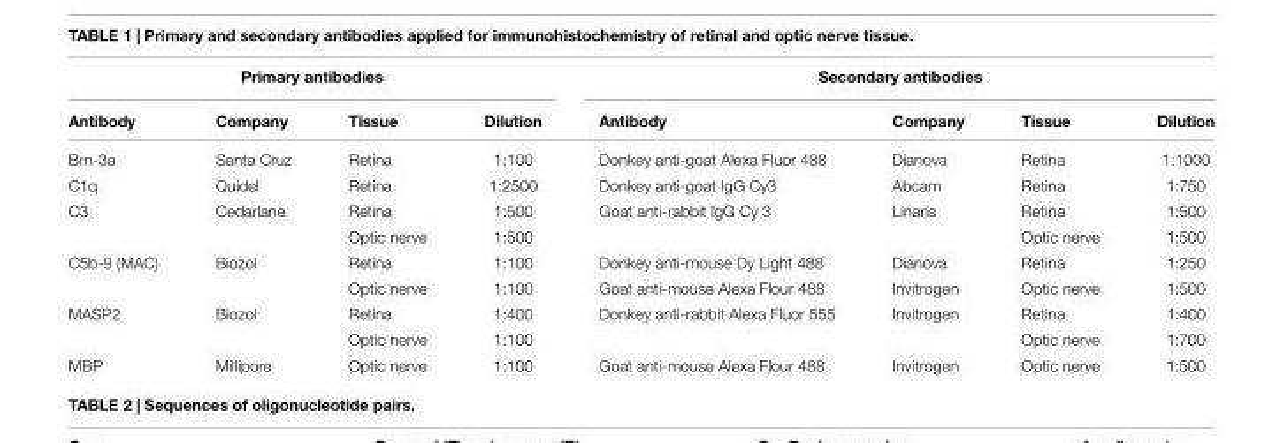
<table><thead><tr><td colspan="4">Primary antibodies</td><td colspan="4">Secondary antibodies</td></tr><tr><td>Antibody</td><td>Company</td><td>Tissue</td><td>Dilution</td><td>Antibody</td><td>Company</td><td>Tissue</td><td>Dilution</td></tr></thead><tbody><tr><td>Brn-3a</td><td>Santa Cruz</td><td>Retina</td><td>1:100</td><td>Donkey anti-goat Alexa Fluor 488</td><td>Dianova</td><td>Retina</td><td>1:1000</td></tr><tr><td>C1q</td><td>Quidel</td><td>Retina</td><td>1:2500</td><td>Donkey anti-goat IgG Cy3</td><td>Abcam</td><td>Retina</td><td>1:750</td></tr><tr><td rowspan="2">C3</td><td>Cedarlane</td><td>Retina</td><td>1:500</td><td>Goat anti-rabbit IgG Cy 3</td><td>Linaris</td><td>Retina</td><td>1:500</td></tr><tr><td></td><td>Optic nerve</td><td>1:500</td><td></td><td></td><td>Optic nerve</td><td>1:500</td></tr><tr><td rowspan="2">C5b-9 (MAC)</td><td>Biozol</td><td>Retina</td><td>1:100</td><td>Donkey anti-mouse Dy Light 488</td><td>Dianova</td><td>Retina</td><td>1:250</td></tr><tr><td></td><td>Optic nerve</td><td>1:100</td><td>Goat anti-mouse Alexa Flour 488</td><td>Invitrogen</td><td>Optic nerve</td><td>1:500</td></tr><tr><td rowspan="2">MASP2</td><td>Biozol</td><td>Retina</td><td>1:400</td><td>Donkey anti-rabbit Alexa Fluor 555</td><td>Invitrogen</td><td>Retina</td><td>1:400</td></tr><tr><td></td><td>Optic nerve</td><td>1:100</td><td></td><td></td><td>Optic nerve</td><td>1:700</td></tr><tr><td>MBP</td><td>Millipore</td><td>Optic nerve</td><td>1:100</td><td>Goat anti-mouse Alexa Flour 488</td><td>Invitrogen</td><td>Optic nerve</td><td>1:500</td></tr></tbody></table>